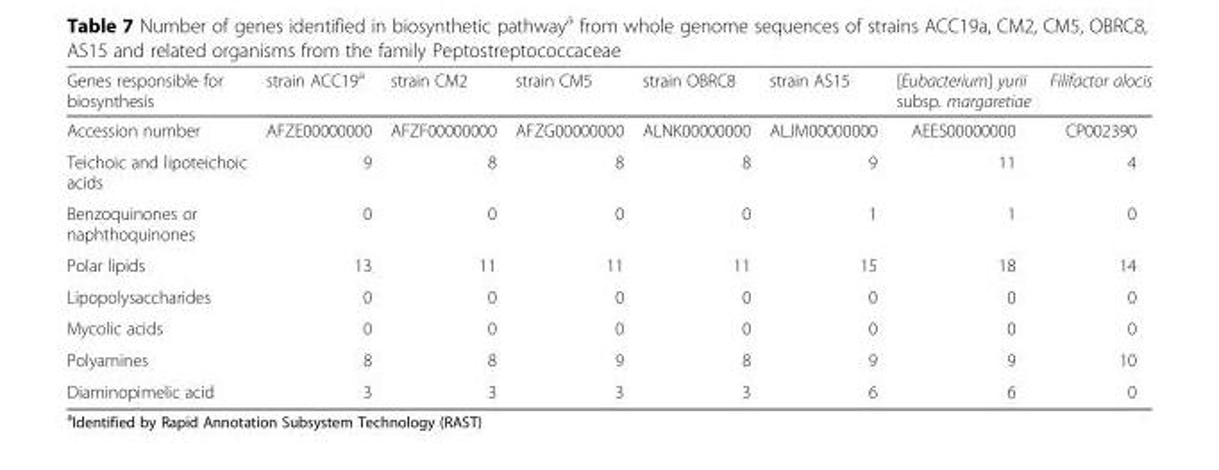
<table><thead><tr><td>Genes responsible for biosynthesis</td><td>strain ACC19<sup>a</sup></td><td>strain CM2</td><td>strain CM5</td><td>strain OBRC8</td><td>strain AS15</td><td>[Eubacterium] yurii subsp. margaretiae</td><td>Filifactor alocis</td></tr></thead><tbody><tr><td>Accession number</td><td>AFZE00000000</td><td>AFZF00000000</td><td>AFZG00000000</td><td>ALNK00000000</td><td>ALJM00000000</td><td>AEES00000000</td><td>CP002390</td></tr><tr><td>Teichoic and lipoteichoic acids</td><td>9</td><td>8</td><td>8</td><td>8</td><td>9</td><td>11</td><td>4</td></tr><tr><td>Benzoquinones or naphthoquinones</td><td>0</td><td>0</td><td>0</td><td>0</td><td>1</td><td>1</td><td>0</td></tr><tr><td>Polar lipids</td><td>13</td><td>11</td><td>11</td><td>11</td><td>15</td><td>18</td><td>14</td></tr><tr><td>Lipopolysaccharides</td><td>0</td><td>0</td><td>0</td><td>0</td><td>0</td><td>0</td><td>0</td></tr><tr><td>Mycolic acids</td><td>0</td><td>0</td><td>0</td><td>0</td><td>0</td><td>0</td><td>0</td></tr><tr><td>Polyamines</td><td>8</td><td>8</td><td>9</td><td>8</td><td>9</td><td>9</td><td>10</td></tr><tr><td>Diaminopimelic acid</td><td>3</td><td>3</td><td>3</td><td>3</td><td>6</td><td>6</td><td>0</td></tr></tbody></table>